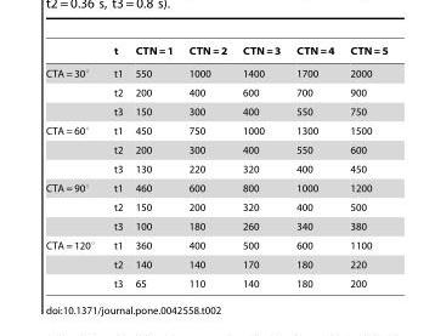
<table><thead><tr><td></td><td>t</td><td>CTN = 1</td><td>CTN = 2</td><td>CTN = 3</td><td>CTN = 4</td><td>CTN = 5</td></tr></thead><tbody><tr><td rowspan="3">CTA = 30°</td><td>t1</td><td>550</td><td>1000</td><td>1400</td><td>1700</td><td>2000</td></tr><tr><td>t2</td><td>200</td><td>400</td><td>600</td><td>700</td><td>900</td></tr><tr><td>t3</td><td>150</td><td>300</td><td>400</td><td>550</td><td>750</td></tr><tr><td rowspan="3">CTA = 60°</td><td>t1</td><td>450</td><td>750</td><td>1000</td><td>1300</td><td>1500</td></tr><tr><td>t2</td><td>200</td><td>300</td><td>400</td><td>550</td><td>600</td></tr><tr><td>t3</td><td>130</td><td>220</td><td>320</td><td>400</td><td>450</td></tr><tr><td rowspan="3">CTA = 90°</td><td>t1</td><td>460</td><td>600</td><td>800</td><td>1000</td><td>1200</td></tr><tr><td>t2</td><td>150</td><td>200</td><td>320</td><td>400</td><td>500</td></tr><tr><td>t3</td><td>100</td><td>180</td><td>260</td><td>340</td><td>380</td></tr><tr><td rowspan="3">CTA = 120°</td><td>t1</td><td>360</td><td>400</td><td>500</td><td>600</td><td>1100</td></tr><tr><td>t2</td><td>140</td><td>140</td><td>170</td><td>180</td><td>220</td></tr><tr><td>t3</td><td>65</td><td>110</td><td>140</td><td>180</td><td>200</td></tr></tbody></table>